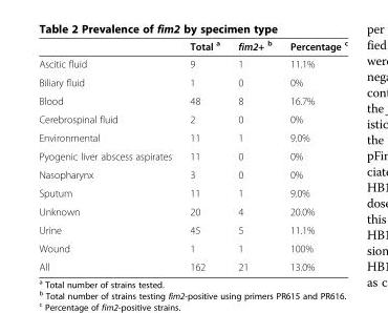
<table><thead><tr><td></td><td>Total <sup>a</sup></td><td>fim2+ <sup>b</sup></td><td>Percentage <sup>c</sup></td></tr></thead><tbody><tr><td>Ascitic fluid</td><td>9</td><td>1</td><td>11.1%</td></tr><tr><td>Biliary fluid</td><td>1</td><td>0</td><td>0%</td></tr><tr><td>Blood</td><td>48</td><td>8</td><td>16.7%</td></tr><tr><td>Cerebrospinal fluid</td><td>2</td><td>0</td><td>0%</td></tr><tr><td>Environmental</td><td>11</td><td>1</td><td>9.0%</td></tr><tr><td>Pyogenic liver abscess aspirates</td><td>11</td><td>0</td><td>0%</td></tr><tr><td>Nasopharynx</td><td>3</td><td>0</td><td>0%</td></tr><tr><td>Sputum</td><td>11</td><td>1</td><td>9.0%</td></tr><tr><td>Unknown</td><td>20</td><td>4</td><td>20.0%</td></tr><tr><td>Urine</td><td>45</td><td>5</td><td>11.1%</td></tr><tr><td>Wound</td><td>1</td><td>1</td><td>100%</td></tr><tr><td>All</td><td>162</td><td>21</td><td>13.0%</td></tr></tbody></table>